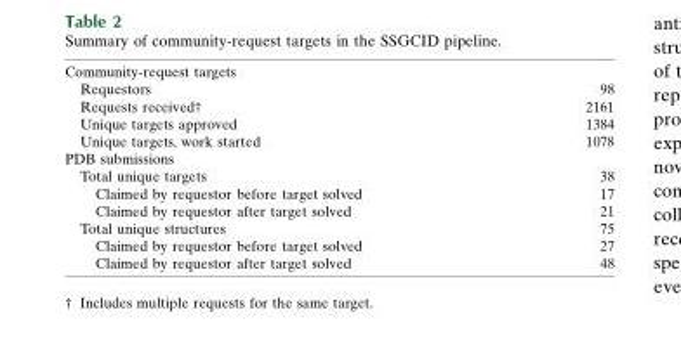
<table><tbody><tr><td colspan="2">Community-request targets</td></tr><tr><td>Requestors</td><td>98</td></tr><tr><td>Requests received†</td><td>2161</td></tr><tr><td>Unique targets approved</td><td>1384</td></tr><tr><td>Unique targets, work started</td><td>1078</td></tr><tr><td colspan="2">PDB submissions</td></tr><tr><td>Total unique targets</td><td>38</td></tr><tr><td>Claimed by requestor before target solved</td><td>17</td></tr><tr><td>Claimed by requestor after target solved</td><td>21</td></tr><tr><td>Total unique structures</td><td>75</td></tr><tr><td>Claimed by requestor before target solved</td><td>27</td></tr><tr><td>Claimed by requestor after target solved</td><td>48</td></tr></tbody></table>